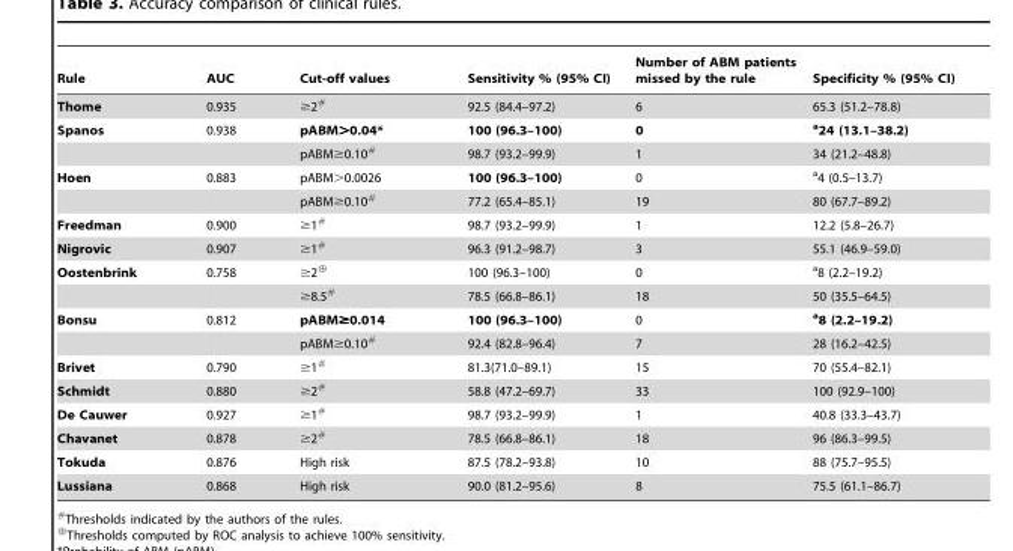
<table><thead><tr><td>Rule</td><td>AUC</td><td>Cut-off values</td><td>Sensitivity % (95% CI)</td><td>Number of ABM patients missed by the rule</td><td>Specificity % (95% CI)</td></tr></thead><tbody><tr><td>Thome</td><td>0.935</td><td>≥2#</td><td>92.5 (84.4–97.2)</td><td>6</td><td>65.3 (51.2–78.8)</td></tr><tr><td rowspan="2">Spanos</td><td>0.938</td><td>pABM&gt;0.04*</td><td>100 (96.3–100)</td><td>0</td><td><sup>a</sup>24 (13.1–38.2)</td></tr><tr><td></td><td>pABM≥0.10#</td><td>98.7 (93.2–99.9)</td><td>1</td><td>34 (21.2–48.8)</td></tr><tr><td rowspan="2">Hoen</td><td>0.883</td><td>pABM&gt;0.0026</td><td>100 (96.3–100)</td><td>0</td><td><sup>a</sup>4 (0.5–13.7)</td></tr><tr><td></td><td>pABM≥0.10#</td><td>77.2 (65.4–85.1)</td><td>19</td><td>80 (67.7–89.2)</td></tr><tr><td>Freedman</td><td>0.900</td><td>≥1#</td><td>98.7 (93.2–99.9)</td><td>1</td><td>12.2 (5.8–26.7)</td></tr><tr><td>Nigrovic</td><td>0.907</td><td>≥1#</td><td>96.3 (91.2–98.7)</td><td>3</td><td>55.1 (46.9–59.0)</td></tr><tr><td rowspan="2">Oostenbrink</td><td>0.758</td><td>$2›</td><td>100 (96.3–100)</td><td>0</td><td><sup>a</sup>8 (2.2–19.2)</td></tr><tr><td></td><td>≥8.5#</td><td>78.5 (66.8–86.1)</td><td>18</td><td>50 (35.5–64.5)</td></tr><tr><td rowspan="2">Bonsu</td><td>0.812</td><td>pABM≥0.014</td><td>100 (96.3–100)</td><td>0</td><td><sup>a</sup>8 (2.2–19.2)</td></tr><tr><td></td><td>pABM≥0.10#</td><td>92.4 (82.8–96.4)</td><td>7</td><td>28 (16.2–42.5)</td></tr><tr><td>Brivet</td><td>0.790</td><td>≥1#</td><td>81.3(71.0–89.1)</td><td>15</td><td>70 (55.4–82.1)</td></tr><tr><td>Schmidt</td><td>0.880</td><td>≥2#</td><td>58.8 (47.2–69.7)</td><td>33</td><td>100 (92.9–100)</td></tr><tr><td>De Cauwer</td><td>0.927</td><td>≥1#</td><td>98.7 (93.2–99.9)</td><td>1</td><td>40.8 (33.3–43.7)</td></tr><tr><td>Chavanet</td><td>0.878</td><td>≥2#</td><td>78.5 (66.8–86.1)</td><td>18</td><td>96 (86.3–99.5)</td></tr><tr><td>Tokuda</td><td>0.876</td><td>High risk</td><td>87.5 (78.2–93.8)</td><td>10</td><td>88 (75.7–95.5)</td></tr><tr><td>Lussiana</td><td>0.868</td><td>High risk</td><td>90.0 (81.2–95.6)</td><td>8</td><td>75.5 (61.1–86.7)</td></tr></tbody></table>